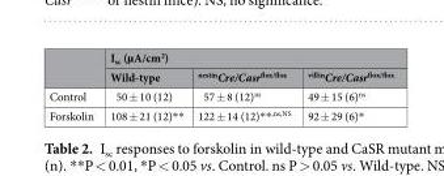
<table><thead><tr><td rowspan="2"></td><td colspan="3">I<sub>sc</sub> (µA/cm<sup>2</sup>)</td></tr><tr><td>Wild-type</td><td><sup>nestin</sup>Cre/Casr<sup>flox/flox</sup></td><td><sup>villin</sup>Cre/Casr<sup>flox/flox</sup></td></tr></thead><tbody><tr><td>Control</td><td>50 ± 10 (12)</td><td>57 ± 8 (12)<sup>ns</sup></td><td>49 ± 15 (6)<sup>ns</sup></td></tr><tr><td>Forskolin</td><td>108 ± 21 (12)**</td><td>122 ± 14 (12)**<sup>,ns,NS</sup></td><td>92 ± 29 (6)*</td></tr></tbody></table>